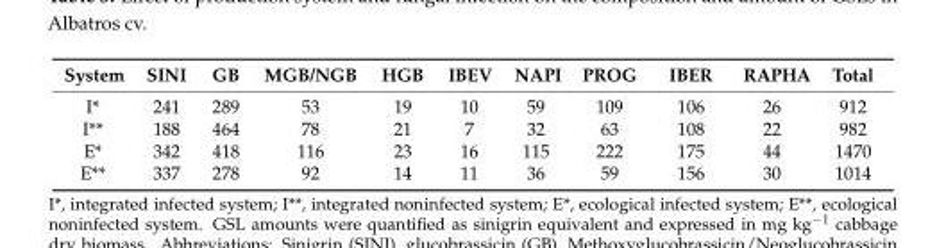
<table><thead><tr><td>System</td><td>SINI</td><td>GB</td><td>MGB/NGB</td><td>HGB</td><td>IBEV</td><td>NAPI</td><td>PROG</td><td>IBER</td><td>RAPHA</td><td>Total</td></tr></thead><tbody><tr><td>I*</td><td>241</td><td>289</td><td>53</td><td>19</td><td>10</td><td>59</td><td>109</td><td>106</td><td>26</td><td>912</td></tr><tr><td>I**</td><td>188</td><td>464</td><td>78</td><td>21</td><td>7</td><td>32</td><td>63</td><td>108</td><td>22</td><td>982</td></tr><tr><td>E*</td><td>342</td><td>418</td><td>116</td><td>23</td><td>16</td><td>115</td><td>222</td><td>175</td><td>44</td><td>1470</td></tr><tr><td>E**</td><td>337</td><td>278</td><td>92</td><td>14</td><td>11</td><td>36</td><td>59</td><td>156</td><td>30</td><td>1014</td></tr></tbody></table>